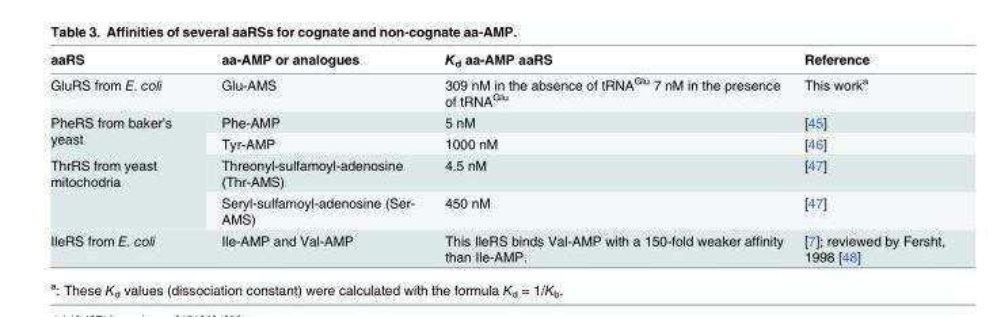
<table><thead><tr><td>aaRS</td><td>aa-AMP or analogues</td><td>K<sub>d</sub> aa-AMP aaRS</td><td>Reference</td></tr></thead><tbody><tr><td>GluRS from E. coli</td><td>Glu-AMS</td><td>309 nM in the absence of tRNA<sup>Glu</sup> 7 nM in the presence of tRNA<sup>Glu</sup></td><td>This work<sup>a</sup></td></tr><tr><td rowspan="2">PheRS from baker’s yeast</td><td>Phe-AMP</td><td>5 nM</td><td>[45]</td></tr><tr><td>Tyr-AMP</td><td>1000 nM</td><td>[46]</td></tr><tr><td rowspan="2">ThrRS from yeast mitochodria</td><td>Threonyl-sulfamoyl-adenosine (Thr-AMS)</td><td>4.5 nM</td><td>[47]</td></tr><tr><td>Seryl-sulfamoyl-adenosine (Ser- AMS)</td><td>450 nM</td><td>[47]</td></tr><tr><td>IleRS from E. coli</td><td>Ile-AMP and Val-AMP</td><td>This IleRS binds Val-AMP with a 150-fold weaker affinity than Ile-AMP.</td><td>[7]; reviewed by Fersht, 1998 [48]</td></tr></tbody></table>